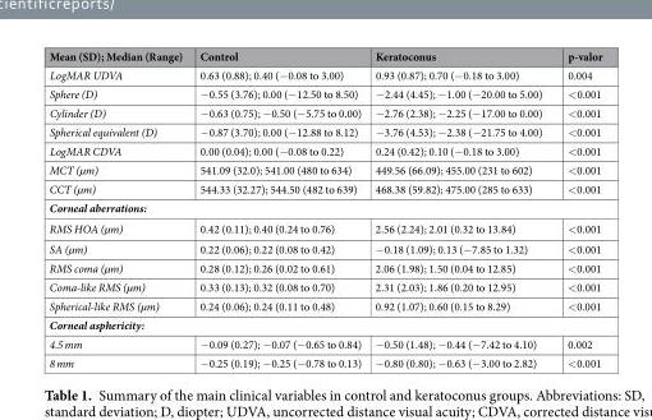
<table><thead><tr><td>Mean (SD); Median (Range)</td><td>Control</td><td>Keratoconus</td><td>p-valor</td></tr></thead><tbody><tr><td>LogMAR UDVA</td><td>0.63 (0.88); 0.40 (−0.08 to 3.00)</td><td>0.93 (0.87); 0.70 (−0.18 to 3.00)</td><td>0.004</td></tr><tr><td>Sphere (D)</td><td>−0.55 (3.76); 0.00 (−12.50 to 8.50)</td><td>−2.44 (4.45); −1.00 (−20.00 to 5.00)</td><td>&lt;0.001</td></tr><tr><td>Cylinder (D)</td><td>−0.63 (0.75); −0.50 (−5.75 to 0.00)</td><td>−2.76 (2.38); −2.25 (−17.00 to 0.00)</td><td>&lt;0.001</td></tr><tr><td>Spherical equivalent (D)</td><td>−0.87 (3.70); 0.00 (−12.88 to 8.12)</td><td>−3.76 (4.53); −2.38 (−21.75 to 4.00)</td><td>&lt;0.001</td></tr><tr><td>LogMAR CDVA</td><td>0.00 (0.04); 0.00 (−0.08 to 0.22)</td><td>0.24 (0.42); 0.10 (−0.18 to 3.00)</td><td>&lt;0.001</td></tr><tr><td>MCT (µm)</td><td>541.09 (32.0); 541.00 (480 to 634)</td><td>449.56 (66.09); 455.00 (231 to 602)</td><td>&lt;0.001</td></tr><tr><td>CCT (µm)</td><td>544.33 (32.27); 544.50 (482 to 639)</td><td>468.38 (59.82); 475.00 (285 to 633)</td><td>&lt;0.001</td></tr><tr><td colspan="4">Corneal aberrations:</td></tr><tr><td>RMS HOA (µm)</td><td>0.42 (0.11); 0.40 (0.24 to 0.76)</td><td>2.56 (2.24); 2.01 (0.32 to 13.84)</td><td>&lt;0.001</td></tr><tr><td>SA (µm)</td><td>0.22 (0.06); 0.22 (0.08 to 0.42)</td><td>−0.18 (1.09); 0.13 (−7.85 to 1.32)</td><td>&lt;0.001</td></tr><tr><td>RMS coma (µm)</td><td>0.28 (0.12); 0.26 (0.02 to 0.61)</td><td>2.06 (1.98); 1.50 (0.04 to 12.85)</td><td>&lt;0.001</td></tr><tr><td>Coma-like RMS (µm)</td><td>0.33 (0.13); 0.32 (0.08 to 0.70)</td><td>2.31 (2.03); 1.86 (0.20 to 12.95)</td><td>&lt;0.001</td></tr><tr><td>Spherical-like RMS (µm)</td><td>0.24 (0.06); 0.24 (0.11 to 0.48)</td><td>0.92 (1.07); 0.60 (0.15 to 8.29)</td><td>&lt;0.001</td></tr><tr><td colspan="4">Corneal asphericity:</td></tr><tr><td>4.5 mm</td><td>−0.09 (0.27); −0.07 (−0.65 to 0.84)</td><td>−0.50 (1.48); −0.44 (−7.42 to 4.10)</td><td>0.002</td></tr><tr><td>8 mm</td><td>−0.25 (0.19); −0.25 (−0.78 to 0.13)</td><td>−0.80 (0.80); −0.63 (−3.00 to 2.82)</td><td>&lt;0.001</td></tr></tbody></table>